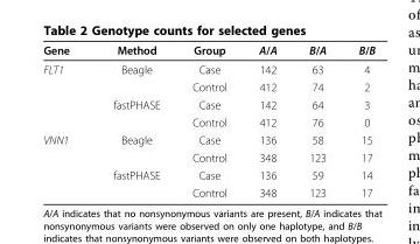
<table><thead><tr><td>Gene</td><td>Method</td><td>Group</td><td>A/A</td><td>B/A</td><td>B/B</td></tr></thead><tbody><tr><td rowspan="4">FLT1</td><td>Beagle</td><td>Case</td><td>142</td><td>63</td><td>4</td></tr><tr><td></td><td>Control</td><td>412</td><td>74</td><td>2</td></tr><tr><td>fastPHASE</td><td>Case</td><td>142</td><td>64</td><td>3</td></tr><tr><td></td><td>Control</td><td>412</td><td>76</td><td>0</td></tr><tr><td rowspan="4">VNN1</td><td>Beagle</td><td>Case</td><td>136</td><td>58</td><td>15</td></tr><tr><td></td><td>Control</td><td>348</td><td>123</td><td>17</td></tr><tr><td>fastPHASE</td><td>Case</td><td>136</td><td>59</td><td>14</td></tr><tr><td></td><td>Control</td><td>348</td><td>123</td><td>17</td></tr></tbody></table>